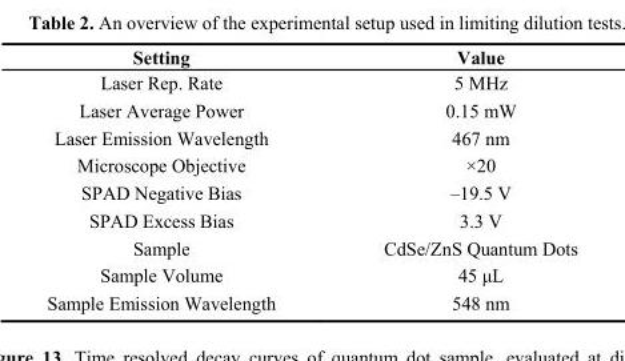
<table><thead><tr><td>Setting</td><td>Value</td></tr></thead><tbody><tr><td>Laser Rep. Rate</td><td>5 MHz</td></tr><tr><td>Laser Average Power</td><td>0.15 mW</td></tr><tr><td>Laser Emission Wavelength</td><td>467 nm</td></tr><tr><td>Microscope Objective</td><td>×20</td></tr><tr><td>SPAD Negative Bias</td><td>–19.5 V</td></tr><tr><td>SPAD Excess Bias</td><td>3.3 V</td></tr><tr><td>Sample</td><td>CdSe/ZnS Quantum Dots</td></tr><tr><td>Sample Volume</td><td>45 μL</td></tr><tr><td>Sample Emission Wavelength</td><td>548 nm</td></tr></tbody></table>